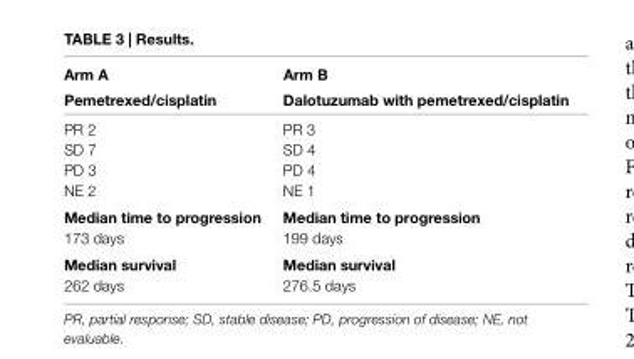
<table><thead><tr><td rowspan="2">arm a Pemetrexed/cisplatin</td><td rowspan="2">arm B Dalotuzumab with pemetrexed/cisplatin</td></tr><tr></tr></thead><tbody><tr><td>PR 2</td><td>PR 3</td></tr><tr><td>SD 7</td><td>SD 4</td></tr><tr><td>PD 3</td><td>PD 4</td></tr><tr><td>NE 2</td><td>NE 1</td></tr><tr><td>Median time to progression</td><td>Median time to progression</td></tr><tr><td>173 days</td><td>199 days</td></tr><tr><td>Median survival</td><td>Median survival</td></tr><tr><td>262 days</td><td>276.5 days</td></tr></tbody></table>